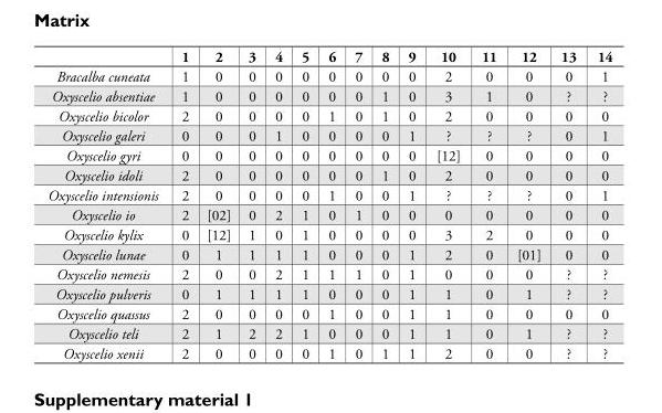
<table><thead><tr><td></td><td>1</td><td>2</td><td>3</td><td>4</td><td>5</td><td>6</td><td>7</td><td>8</td><td>9</td><td>10</td><td>11</td><td>12</td><td>13</td><td>14</td></tr></thead><tbody><tr><td>Bracalba cuneata</td><td>1</td><td>0</td><td>0</td><td>0</td><td>0</td><td>0</td><td>0</td><td>0</td><td>0</td><td>2</td><td>0</td><td>0</td><td>0</td><td>1</td></tr><tr><td>Oxyscelio absentiae</td><td>1</td><td>0</td><td>0</td><td>0</td><td>0</td><td>0</td><td>0</td><td>1</td><td>0</td><td>3</td><td>1</td><td>0</td><td>?</td><td>?</td></tr><tr><td>Oxyscelio bicolor</td><td>2</td><td>0</td><td>0</td><td>0</td><td>0</td><td>1</td><td>0</td><td>1</td><td>0</td><td>2</td><td>0</td><td>0</td><td>0</td><td>0</td></tr><tr><td>Oxyscelio galeri</td><td>0</td><td>0</td><td>0</td><td>1</td><td>0</td><td>0</td><td>0</td><td>0</td><td>1</td><td>?</td><td>?</td><td>?</td><td>0</td><td>1</td></tr><tr><td>Oxyscelio gyri</td><td>0</td><td>0</td><td>0</td><td>0</td><td>0</td><td>0</td><td>0</td><td>0</td><td>0</td><td>[12]</td><td>0</td><td>0</td><td>0</td><td>0</td></tr><tr><td>Oxyscelio idoli</td><td>2</td><td>0</td><td>0</td><td>0</td><td>0</td><td>0</td><td>0</td><td>1</td><td>0</td><td>2</td><td>0</td><td>0</td><td>0</td><td>0</td></tr><tr><td>Oxyscelio intensionis</td><td>2</td><td>0</td><td>0</td><td>0</td><td>0</td><td>1</td><td>0</td><td>0</td><td>1</td><td>?</td><td>?</td><td>?</td><td>0</td><td>1</td></tr><tr><td>Oxyscelio io</td><td>2</td><td>[02]</td><td>0</td><td>2</td><td>1</td><td>0</td><td>1</td><td>0</td><td>0</td><td>0</td><td>0</td><td>0</td><td>0</td><td>0</td></tr><tr><td>Oxyscelio kylix</td><td>0</td><td>[12]</td><td>1</td><td>0</td><td>1</td><td>0</td><td>0</td><td>0</td><td>0</td><td>3</td><td>2</td><td>0</td><td>0</td><td>0</td></tr><tr><td>Oxyscelio lunae</td><td>0</td><td>1</td><td>1</td><td>1</td><td>1</td><td>0</td><td>0</td><td>0</td><td>1</td><td>2</td><td>0</td><td>[01]</td><td>0</td><td>0</td></tr><tr><td>Oxyscelio nemesis</td><td>2</td><td>0</td><td>0</td><td>2</td><td>1</td><td>1</td><td>1</td><td>0</td><td>1</td><td>0</td><td>0</td><td>0</td><td>?</td><td>?</td></tr><tr><td>Oxyscelio pulveris</td><td>0</td><td>1</td><td>1</td><td>1</td><td>1</td><td>0</td><td>0</td><td>0</td><td>1</td><td>1</td><td>0</td><td>1</td><td>?</td><td>?</td></tr><tr><td>Oxyscelio quassus</td><td>2</td><td>0</td><td>0</td><td>0</td><td>0</td><td>1</td><td>0</td><td>0</td><td>1</td><td>1</td><td>0</td><td>0</td><td>0</td><td>0</td></tr><tr><td>Oxyscelio teli</td><td>2</td><td>1</td><td>2</td><td>2</td><td>1</td><td>0</td><td>0</td><td>0</td><td>1</td><td>1</td><td>0</td><td>1</td><td>?</td><td>?</td></tr><tr><td>Oxyscelio xenii</td><td>2</td><td>0</td><td>0</td><td>0</td><td>0</td><td>1</td><td>0</td><td>1</td><td>1</td><td>2</td><td>0</td><td>0</td><td>?</td><td>?</td></tr></tbody></table>